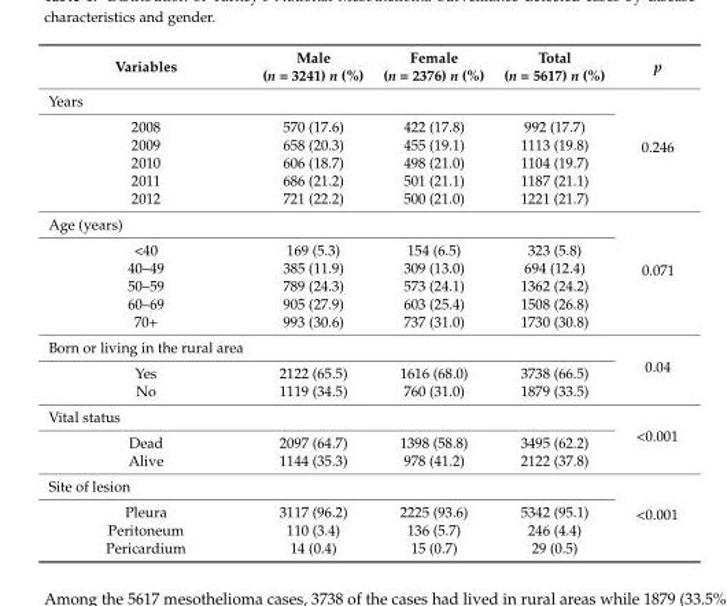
<table><thead><tr><td>Variables</td><td>Male (n = 3241) n (%)</td><td>Female (n = 2376) n (%)</td><td>Total (n = 5617) n (%)</td><td>p</td></tr></thead><tbody><tr><td colspan="4">Years</td><td rowspan="6">0.246</td></tr><tr><td>2008</td><td>570 (17.6)</td><td>422 (17.8)</td><td>992 (17.7)</td></tr><tr><td>2009</td><td>658 (20.3)</td><td>455 (19.1)</td><td>1113 (19.8)</td></tr><tr><td>2010</td><td>606 (18.7)</td><td>498 (21.0)</td><td>1104 (19.7)</td></tr><tr><td>2011</td><td>686 (21.2)</td><td>501 (21.1)</td><td>1187 (21.1)</td></tr><tr><td>2012</td><td>721 (22.2)</td><td>500 (21.0)</td><td>1221 (21.7)</td></tr><tr><td colspan="4">Age (years)</td><td rowspan="6">0.071</td></tr><tr><td>&lt;40</td><td>169 (5.3)</td><td>154 (6.5)</td><td>323 (5.8)</td></tr><tr><td>40–49</td><td>385 (11.9)</td><td>309 (13.0)</td><td>694 (12.4)</td></tr><tr><td>50–59</td><td>789 (24.3)</td><td>573 (24.1)</td><td>1362 (24.2)</td></tr><tr><td>60–69</td><td>905 (27.9)</td><td>603 (25.4)</td><td>1508 (26.8)</td></tr><tr><td>70+</td><td>993 (30.6)</td><td>737 (31.0)</td><td>1730 (30.8)</td></tr><tr><td colspan="4">Born or living in the rural area</td><td rowspan="3">0.04</td></tr><tr><td>Yes</td><td>2122 (65.5)</td><td>1616 (68.0)</td><td>3738 (66.5)</td></tr><tr><td>No</td><td>1119 (34.5)</td><td>760 (31.0)</td><td>1879 (33.5)</td></tr><tr><td colspan="4">Vital status</td><td rowspan="3">&lt;0.001</td></tr><tr><td>Dead</td><td>2097 (64.7)</td><td>1398 (58.8)</td><td>3495 (62.2)</td></tr><tr><td>Alive</td><td>1144 (35.3)</td><td>978 (41.2)</td><td>2122 (37.8)</td></tr><tr><td colspan="4">Site of lesion</td><td rowspan="4">&lt;0.001</td></tr><tr><td>Pleura</td><td>3117 (96.2)</td><td>2225 (93.6)</td><td>5342 (95.1)</td></tr><tr><td>Peritoneum</td><td>110 (3.4)</td><td>136 (5.7)</td><td>246 (4.4)</td></tr><tr><td>Pericardium</td><td>14 (0.4)</td><td>15 (0.7)</td><td>29 (0.5)</td></tr></tbody></table>